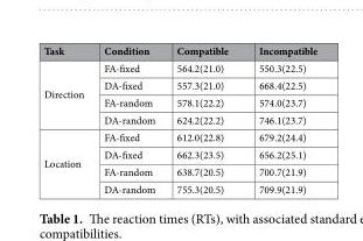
<table><thead><tr><td>Task</td><td>Condition</td><td>Compatible</td><td>Incompatible</td></tr></thead><tbody><tr><td rowspan="4">Direction</td><td>FA-fixed</td><td>564.2(21.0)</td><td>550.3(22.5)</td></tr><tr><td>DA-fixed</td><td>557.3(21.0)</td><td>668.4(22.5)</td></tr><tr><td>FA-random</td><td>578.1(22.2)</td><td>574.0(23.7)</td></tr><tr><td>DA-random</td><td>624.2(22.2)</td><td>746.1(23.7)</td></tr><tr><td rowspan="4">Location</td><td>FA-fixed</td><td>612.0(22.8)</td><td>679.2(24.4)</td></tr><tr><td>DA-fixed</td><td>662.3(23.5)</td><td>656.2(25.1)</td></tr><tr><td>FA-random</td><td>638.7(20.5)</td><td>700.7(21.9)</td></tr><tr><td>DA-random</td><td>755.3(20.5)</td><td>709.9(21.9)</td></tr></tbody></table>